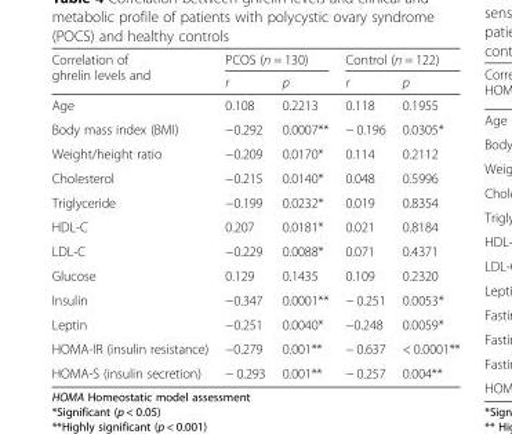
<table><thead><tr><td rowspan="2">Correlation of ghrelin levels and</td><td colspan="2">PCOS (n = 130)</td><td colspan="2">Control (n = 122)</td></tr><tr><td>r</td><td>p</td><td>r</td><td>p</td></tr></thead><tbody><tr><td>Age</td><td>0.108</td><td>0.2213</td><td>0.118</td><td>0.1955</td></tr><tr><td>Body mass index (BMI)</td><td>−0.292</td><td>0.0007**</td><td>− 0.196</td><td>0.0305*</td></tr><tr><td>Weight/height ratio</td><td>−0.209</td><td>0.0170*</td><td>0.114</td><td>0.2112</td></tr><tr><td>Cholesterol</td><td>−0.215</td><td>0.0140*</td><td>0.048</td><td>0.5996</td></tr><tr><td>Triglyceride</td><td>−0.199</td><td>0.0232*</td><td>0.019</td><td>0.8354</td></tr><tr><td>HDL-C</td><td>0.207</td><td>0.0181*</td><td>0.021</td><td>0.8184</td></tr><tr><td>LDL-C</td><td>−0.229</td><td>0.0088*</td><td>0.071</td><td>0.4371</td></tr><tr><td>Glucose</td><td>0.129</td><td>0.1435</td><td>0.109</td><td>0.2320</td></tr><tr><td>Insulin</td><td>−0.347</td><td>0.0001**</td><td>− 0.251</td><td>0.0053*</td></tr><tr><td>Leptin</td><td>−0.251</td><td>0.0040*</td><td>−0.248</td><td>0.0059*</td></tr><tr><td>HOMA-IR (insulin resistance)</td><td>−0.279</td><td>0.001**</td><td>− 0.637</td><td>&lt; 0.0001**</td></tr><tr><td>HOMA-S (insulin secretion)</td><td>− 0.293</td><td>0.001**</td><td>− 0.257</td><td>0.004**</td></tr></tbody></table>